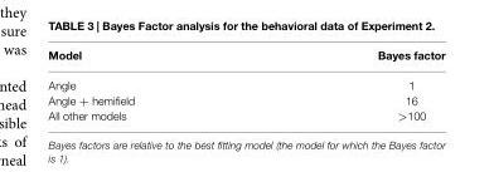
<table><thead><tr><td>Model</td><td>Bayes factor</td></tr></thead><tbody><tr><td>Angle</td><td>1</td></tr><tr><td>Angle + hemifield</td><td>16</td></tr><tr><td>All other models</td><td>&gt;100</td></tr></tbody></table>